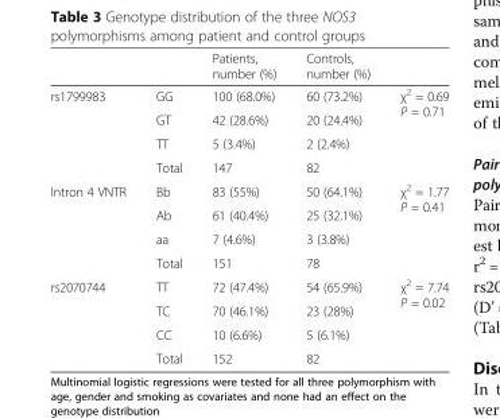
<table><thead><tr><td></td><td></td><td>Patients, number (%)</td><td>Controls, number (%)</td><td></td></tr></thead><tbody><tr><td rowspan="4">rs1799983</td><td>GG</td><td>100 (68.0%)</td><td>60 (73.2%)</td><td rowspan="4">χ<sup>2</sup> = 0.69 P = 0.71</td></tr><tr><td>GT</td><td>42 (28.6%)</td><td>20 (24.4%)</td></tr><tr><td>TT</td><td>5 (3.4%)</td><td>2 (2.4%)</td></tr><tr><td>Total</td><td>147</td><td>82</td></tr><tr><td rowspan="4">Intron 4 VNTR</td><td>Bb</td><td>83 (55%)</td><td>50 (64.1%)</td><td rowspan="4">χ<sup>2</sup> = 1.77 P = 0.41</td></tr><tr><td>Ab</td><td>61 (40.4%)</td><td>25 (32.1%)</td></tr><tr><td>aa</td><td>7 (4.6%)</td><td>3 (3.8%)</td></tr><tr><td>Total</td><td>151</td><td>78</td></tr><tr><td rowspan="4">rs2070744</td><td>TT</td><td>72 (47.4%)</td><td>54 (65.9%)</td><td rowspan="4">χ<sup>2</sup> = 7.74 P = 0.02</td></tr><tr><td>TC</td><td>70 (46.1%)</td><td>23 (28%)</td></tr><tr><td>CC</td><td>10 (6.6%)</td><td>5 (6.1%)</td></tr><tr><td>Total</td><td>152</td><td>82</td></tr></tbody></table>